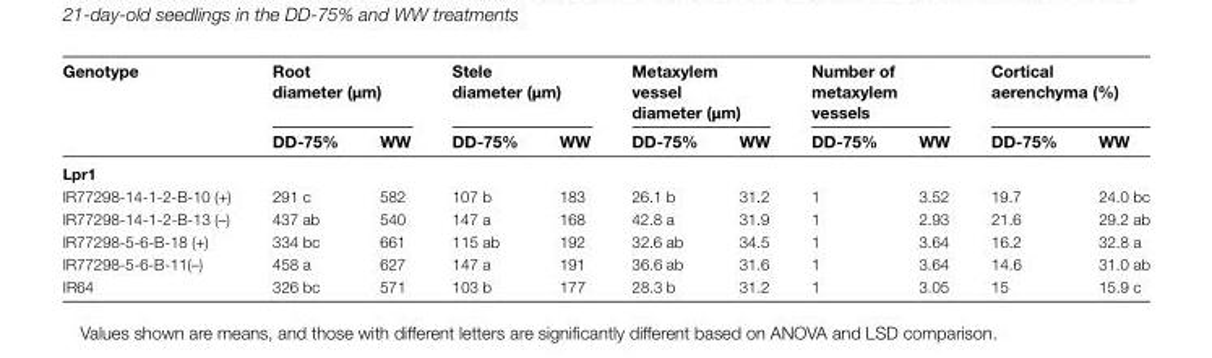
<table><thead><tr><td rowspan="2">Genotype</td><td colspan="2">Root diameter (µm)</td><td colspan="2">Stele diameter (µm)</td><td colspan="2">Metaxylem vessel diameter (µm)</td><td colspan="2">Number of metaxylem vessels</td><td colspan="2">Cortical aerenchyma (%)</td></tr><tr><td>DD-75%</td><td>WW</td><td>DD-75%</td><td>WW</td><td>DD-75%</td><td>WW</td><td>DD-75%</td><td>WW</td><td>DD-75%</td><td>WW</td></tr></thead><tbody><tr><td colspan="11">Lpr1</td></tr><tr><td>IR77298-14-1-2-B-10 (+)</td><td>291 c</td><td>582</td><td>107 b</td><td>183</td><td>26.1 b</td><td>31.2</td><td>1</td><td>3.52</td><td>19.7</td><td>24.0 bc</td></tr><tr><td>IR77298-14-1-2-B-13 (–)</td><td>437 ab</td><td>540</td><td>147 a</td><td>168</td><td>42.8 a</td><td>31.9</td><td>1</td><td>2.93</td><td>21.6</td><td>29.2 ab</td></tr><tr><td>IR77298-5-6-B-18 (+)</td><td>334 bc</td><td>661</td><td>115 ab</td><td>192</td><td>32.6 ab</td><td>34.5</td><td>1</td><td>3.64</td><td>16.2</td><td>32.8 a</td></tr><tr><td>IR77298-5-6-B-11(–)</td><td>458 a</td><td>627</td><td>147 a</td><td>191</td><td>36.6 ab</td><td>31.6</td><td>1</td><td>3.64</td><td>14.6</td><td>31.0 ab</td></tr><tr><td>IR64</td><td>326 bc</td><td>571</td><td>103 b</td><td>177</td><td>28.3 b</td><td>31.2</td><td>1</td><td>3.05</td><td>15</td><td>15.9 c</td></tr></tbody></table>